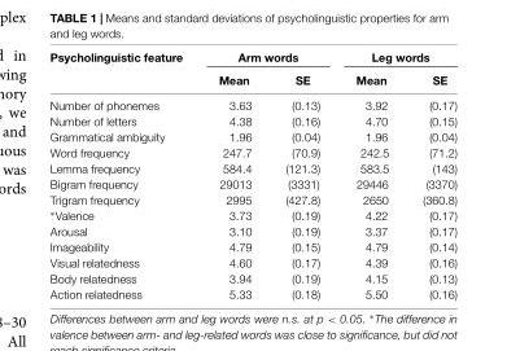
<table><thead><tr><td rowspan="2">Psycholinguistic feature</td><td colspan="2">Arm words</td><td colspan="2">Leg words</td></tr><tr><td>Mean</td><td>SE</td><td>Mean</td><td>SE</td></tr></thead><tbody><tr><td>Number of phonemes</td><td>3.63</td><td>(0.13)</td><td>3.92</td><td>(0.17)</td></tr><tr><td>Number of letters</td><td>4.38</td><td>(0.16)</td><td>4.70</td><td>(0.15)</td></tr><tr><td>Grammatical ambiguity</td><td>1.96</td><td>(0.04)</td><td>1.96</td><td>(0.04)</td></tr><tr><td>Word frequency</td><td>247.7</td><td>(70.9)</td><td>242.5</td><td>(71.2)</td></tr><tr><td>Lemma frequency</td><td>584.4</td><td>(121.3)</td><td>583.5</td><td>(143)</td></tr><tr><td>Bigram frequency</td><td>29013</td><td>(3331)</td><td>29446</td><td>(3370)</td></tr><tr><td>Trigram frequency</td><td>2995</td><td>(427.8)</td><td>2650</td><td>(360.8)</td></tr><tr><td>∗Valence</td><td>3.73</td><td>(0.19)</td><td>4.22</td><td>(0.17)</td></tr><tr><td>Arousal</td><td>3.10</td><td>(0.19)</td><td>3.37</td><td>(0.17)</td></tr><tr><td>Imageability</td><td>4.79</td><td>(0.15)</td><td>4.79</td><td>(0.14)</td></tr><tr><td>Visual relatedness</td><td>4.60</td><td>(0.17)</td><td>4.39</td><td>(0.16)</td></tr><tr><td>Body relatedness</td><td>3.94</td><td>(0.19)</td><td>4.15</td><td>(0.13)</td></tr><tr><td>Action relatedness</td><td>5.33</td><td>(0.18)</td><td>5.50</td><td>(0.16)</td></tr></tbody></table>